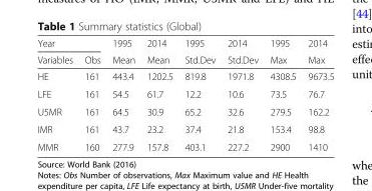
<table><thead><tr><td colspan="2">Year</td><td rowspan="2">1995 Mean</td><td rowspan="2">2014 Mean</td><td rowspan="2">1995 Std.Dev</td><td rowspan="2">2014 Std.Dev</td><td rowspan="2">1995 Max</td><td rowspan="2">2014 Max</td></tr><tr><td>Variables</td><td>Obs</td></tr></thead><tbody><tr><td>HE</td><td>161</td><td>443.4</td><td>1202.5</td><td>819.8</td><td>1971.8</td><td>4308.5</td><td>9673.5</td></tr><tr><td>LFE</td><td>161</td><td>54.5</td><td>61.7</td><td>12.2</td><td>10.6</td><td>73.5</td><td>76.7</td></tr><tr><td>U5MR</td><td>161</td><td>64.5</td><td>30.9</td><td>65.2</td><td>32.6</td><td>279.5</td><td>162.2</td></tr><tr><td>IMR</td><td>161</td><td>43.7</td><td>23.2</td><td>37.4</td><td>21.8</td><td>153.4</td><td>98.8</td></tr><tr><td>MMR</td><td>160</td><td>277.9</td><td>157.8</td><td>403.1</td><td>227.2</td><td>2900</td><td>1410</td></tr></tbody></table>